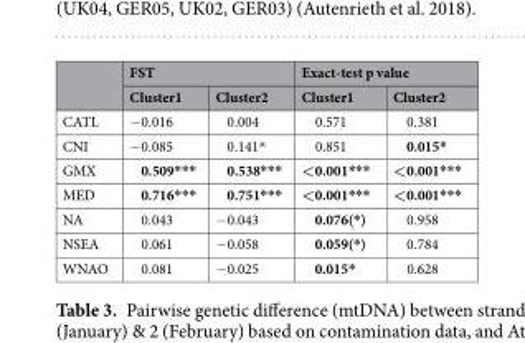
<table><thead><tr><td rowspan="2"></td><td colspan="2">FST</td><td colspan="2">Exact-test p value</td></tr><tr><td>Cluster1</td><td>Cluster2</td><td>Cluster1</td><td>Cluster2</td></tr></thead><tbody><tr><td>CATL</td><td>−0.016</td><td>0.004</td><td>0.571</td><td>0.381</td></tr><tr><td>CNI</td><td>−0.085</td><td>0.141*</td><td>0.851</td><td>0.015*</td></tr><tr><td>GMX</td><td>0.509***</td><td>0.538***</td><td>&lt;0.001***</td><td>&lt;0.001***</td></tr><tr><td>MED</td><td>0.716***</td><td>0.751***</td><td>&lt;0.001***</td><td>&lt;0.001***</td></tr><tr><td>NA</td><td>0.043</td><td>−0.043</td><td>0.076(*)</td><td>0.958</td></tr><tr><td>NSEA</td><td>0.061</td><td>−0.058</td><td>0.059(*)</td><td>0.784</td></tr><tr><td>WNAO</td><td>0.081</td><td>−0.025</td><td>0.015*</td><td>0.628</td></tr></tbody></table>